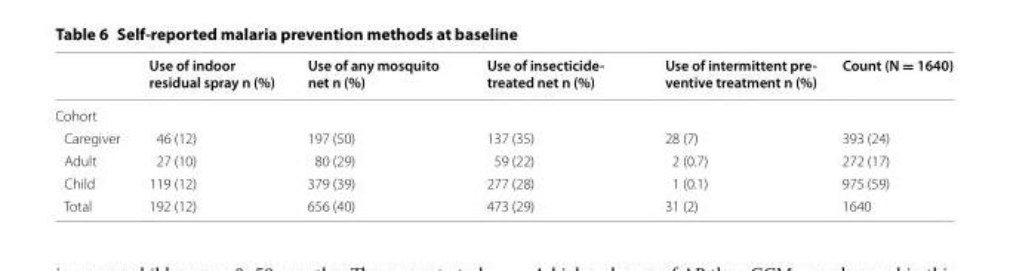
<table><thead><tr><td></td><td>Use of indoor residual spray n (%)</td><td>Use of any mosquito net n (%)</td><td>Use of insecticide- treated net n (%)</td><td>Use of intermittent pre- ventive treatment n (%)</td><td>Count (N = 1640)</td></tr></thead><tbody><tr><td colspan="6">Cohort</td></tr><tr><td>Caregiver</td><td>46 (12)</td><td>197 (50)</td><td>137 (35)</td><td>28 (7)</td><td>393 (24)</td></tr><tr><td>Adult</td><td>27 (10)</td><td>80 (29)</td><td>59 (22)</td><td>2 (0.7)</td><td>272 (17)</td></tr><tr><td>Child</td><td>119 (12)</td><td>379 (39)</td><td>277 (28)</td><td>1 (0.1)</td><td>975 (59)</td></tr><tr><td>Total</td><td>192 (12)</td><td>656 (40)</td><td>473 (29)</td><td>31 (2)</td><td>1640</td></tr></tbody></table>